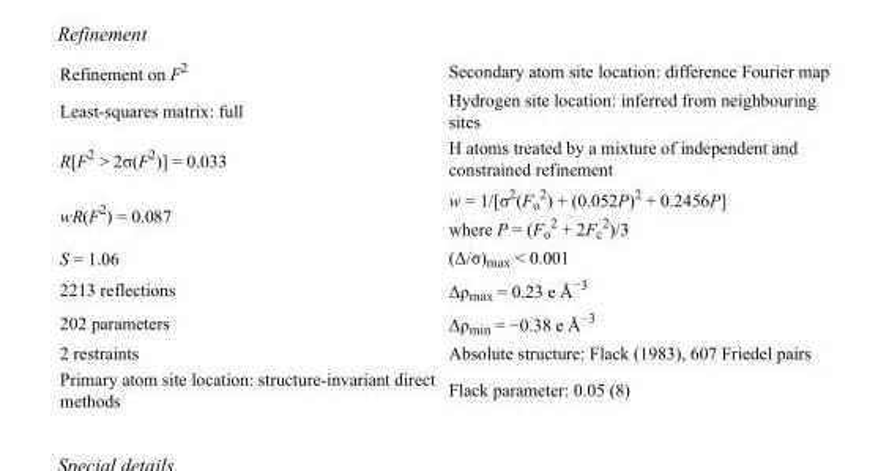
<table><tbody><tr><td>Refinement on F<sup>2</sup></td><td>Secondary atom site location: difference Fourier map</td></tr><tr><td>Least-squares matrix: full</td><td>Hydrogen site location: inferred from neighbouring sites</td></tr><tr><td>R[F<sup>2</sup> &gt; 2σ(F<sup>2</sup>)] = 0.033</td><td>H atoms treated by a mixture of independent and constrained refinement</td></tr><tr><td>wR(F<sup>2</sup>) = 0.087</td><td>w = 1/[σ<sup>2</sup>(F<sub>o</sub> <sup>2</sup>) + (0.052P)<sup>2</sup> + 0.2456P] where P = (F<sub>o</sub> <sup>2</sup> + 2F<sub>c</sub> <sup>2</sup>)/3</td></tr><tr><td>S = 1.06</td><td>(Δ/σ)<sub>max</sub> &lt; 0.001</td></tr><tr><td>2213 reflections</td><td>Δρ<sub>max</sub> = 0.23 e Å<sup>−3</sup></td></tr><tr><td>202 parameters</td><td>Δρ<sub>min</sub> = −0.38 e Å<sup>−3</sup></td></tr><tr><td>2 restraints</td><td>Absolute structure: Flack (1983), 607 Friedel pairs</td></tr><tr><td>Primary atom site location: structure-invariant direct methods</td><td>Flack parameter: 0.05 (8)</td></tr></tbody></table>